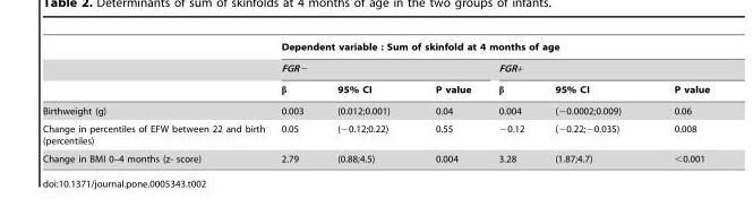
<table><thead><tr><td rowspan="3"></td><td colspan="6">Dependent variable : Sum of skinfold at 4 months of age</td></tr><tr><td colspan="3">FGR−</td><td colspan="3">FGR+</td></tr><tr><td>β</td><td>95% CI</td><td>P value</td><td>β</td><td>95% CI</td><td>P value</td></tr></thead><tbody><tr><td>Birthweight (g)</td><td>0.003</td><td>(0.012;0.001)</td><td>0.04</td><td>0.004</td><td>(−0.0002;0.009)</td><td>0.06</td></tr><tr><td>Change in percentiles of EFW between 22 and birth (percentiles)</td><td>0.05</td><td>(−0.12;0.22)</td><td>0.55</td><td>−0.12</td><td>(−0.22;−0.035)</td><td>0.008</td></tr><tr><td>Change in BMI 0–4 months (z- score)</td><td>2.79</td><td>(0.88;4.5)</td><td>0.004</td><td>3.28</td><td>(1.87;4.7)</td><td>&lt;0.001</td></tr></tbody></table>